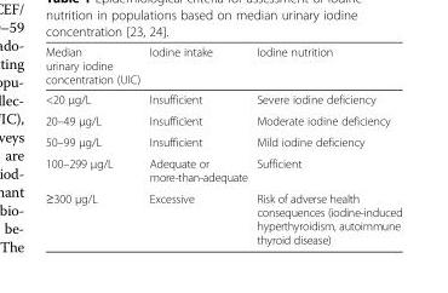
<table><thead><tr><td>Median urinary iodine concentration (UIC)</td><td>Iodine intake</td><td>Iodine nutrition</td></tr></thead><tbody><tr><td>&lt;20 μg/L</td><td>Insufficient</td><td>Severe iodine deficiency</td></tr><tr><td>20–49 μg/L</td><td>Insufficient</td><td>Moderate iodine deficiency</td></tr><tr><td>50–99 μg/L</td><td>Insufficient</td><td>Mild iodine deficiency</td></tr><tr><td>100–299 μg/L</td><td>Adequate or more-than-adequate</td><td>Sufficient</td></tr><tr><td>≥300 μg/L</td><td>Excessive</td><td>Risk of adverse health consequences (iodine-induced hyperthyroidism, autoimmune thyroid disease)</td></tr></tbody></table>